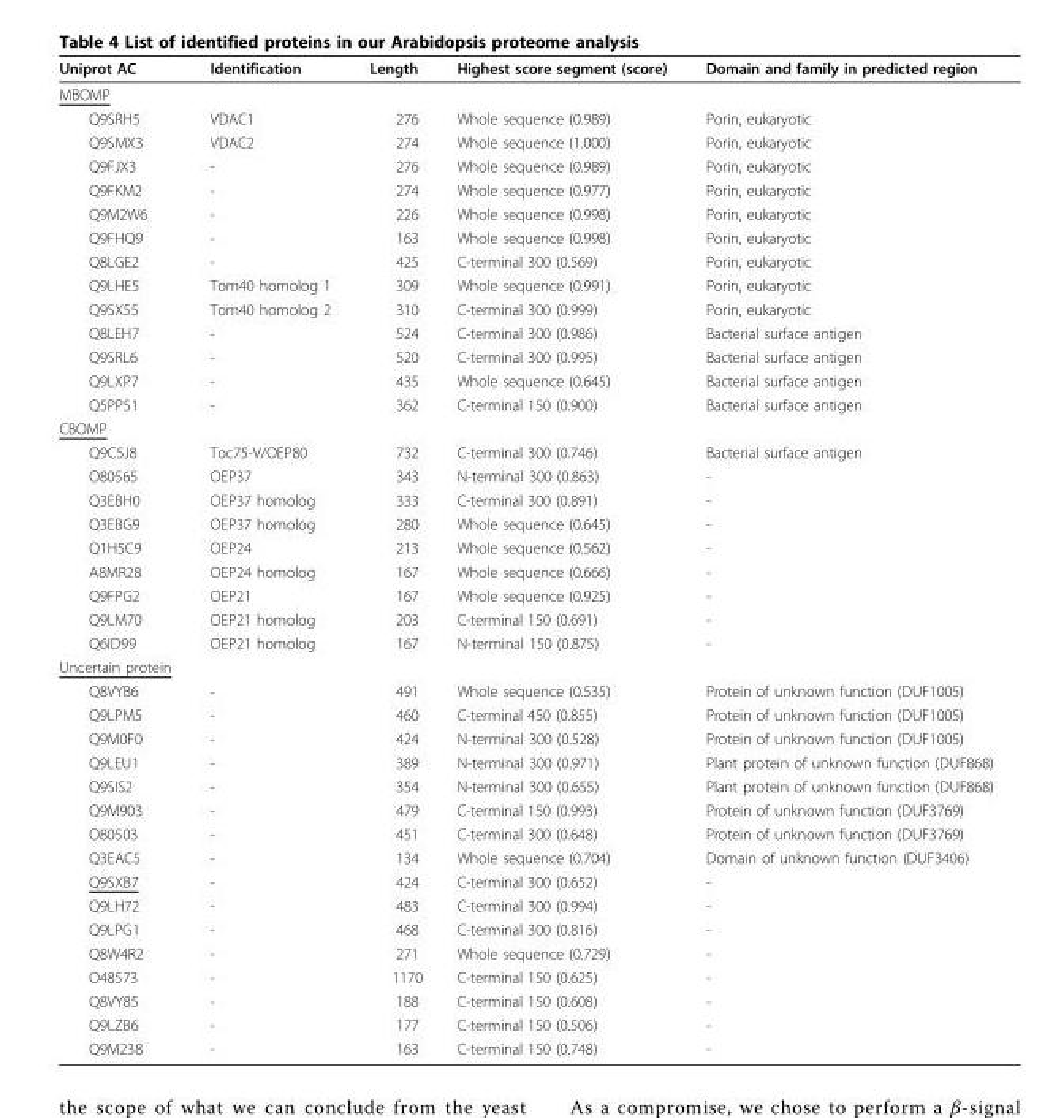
<table><thead><tr><td>Uniprot AC</td><td>Identification</td><td>Length</td><td>Highest score segment (score)</td><td>Domain and family in predicted region</td></tr></thead><tbody><tr><td colspan="5">MBOMP</td></tr><tr><td>Q9SRH5</td><td>VDAC1</td><td>276</td><td>Whole sequence (0.989)</td><td>Porin, eukaryotic</td></tr><tr><td>Q9SMX3</td><td>VDAC2</td><td>274</td><td>Whole sequence (1.000)</td><td>Porin, eukaryotic</td></tr><tr><td>Q9FJX3</td><td>-</td><td>276</td><td>Whole sequence (0.989)</td><td>Porin, eukaryotic</td></tr><tr><td>Q9FKM2</td><td>-</td><td>274</td><td>Whole sequence (0.977)</td><td>Porin, eukaryotic</td></tr><tr><td>Q9M2W6</td><td>-</td><td>226</td><td>Whole sequence (0.998)</td><td>Porin, eukaryotic</td></tr><tr><td>Q9FHQ9</td><td>-</td><td>163</td><td>Whole sequence (0.998)</td><td>Porin, eukaryotic</td></tr><tr><td>Q8LGE2</td><td>-</td><td>425</td><td>C-terminal 300 (0.569)</td><td>Porin, eukaryotic</td></tr><tr><td>Q9LHE5</td><td>Tom40 homolog 1</td><td>309</td><td>Whole sequence (0.991)</td><td>Porin, eukaryotic</td></tr><tr><td>Q9SX55</td><td>Tom40 homolog 2</td><td>310</td><td>C-terminal 300 (0.999)</td><td>Porin, eukaryotic</td></tr><tr><td>Q8LEH7</td><td>-</td><td>524</td><td>C-terminal 300 (0.986)</td><td>Bacterial surface antigen</td></tr><tr><td>Q9SRL6</td><td>-</td><td>520</td><td>C-terminal 300 (0.995)</td><td>Bacterial surface antigen</td></tr><tr><td>Q9LXP7</td><td>-</td><td>435</td><td>Whole sequence (0.645)</td><td>Bacterial surface antigen</td></tr><tr><td>Q5PP51</td><td>-</td><td>362</td><td>C-terminal 150 (0.900)</td><td>Bacterial surface antigen</td></tr><tr><td colspan="5">CBOMP</td></tr><tr><td>Q9C5J8</td><td>Toc75-V/OEP80</td><td>732</td><td>C-terminal 300 (0.746)</td><td>Bacterial surface antigen</td></tr><tr><td>O80565</td><td>OEP37</td><td>343</td><td>N-terminal 300 (0.863)</td><td>-</td></tr><tr><td>Q3EBH0</td><td>OEP37 homolog</td><td>333</td><td>C-terminal 300 (0.891)</td><td>-</td></tr><tr><td>Q3EBG9</td><td>OEP37 homolog</td><td>280</td><td>Whole sequence (0.645)</td><td>-</td></tr><tr><td>Q1H5C9</td><td>OEP24</td><td>213</td><td>Whole sequence (0.562)</td><td>-</td></tr><tr><td>A8MR28</td><td>OEP24 homolog</td><td>167</td><td>Whole sequence (0.666)</td><td>-</td></tr><tr><td>Q9FPG2</td><td>OEP21</td><td>167</td><td>Whole sequence (0.925)</td><td>-</td></tr><tr><td>Q9LM70</td><td>OEP21 homolog</td><td>203</td><td>C-terminal 150 (0.691)</td><td>-</td></tr><tr><td>Q6ID99</td><td>OEP21 homolog</td><td>167</td><td>N-terminal 150 (0.875)</td><td>-</td></tr><tr><td colspan="5">Uncertain protein</td></tr><tr><td>Q8VYB6</td><td>-</td><td>491</td><td>Whole sequence (0.535)</td><td>Protein of unknown function (DUF1005)</td></tr><tr><td>Q9LPM5</td><td>-</td><td>460</td><td>C-terminal 450 (0.855)</td><td>Protein of unknown function (DUF1005)</td></tr><tr><td>Q9M0F0</td><td>-</td><td>424</td><td>N-terminal 300 (0.528)</td><td>Protein of unknown function (DUF1005)</td></tr><tr><td>Q9LEU1</td><td>-</td><td>389</td><td>N-terminal 300 (0.971)</td><td>Plant protein of unknown function (DUF868)</td></tr><tr><td>Q9SIS2</td><td>-</td><td>354</td><td>N-terminal 300 (0.655)</td><td>Plant protein of unknown function (DUF868)</td></tr><tr><td>Q9M903</td><td>-</td><td>479</td><td>C-terminal 150 (0.993)</td><td>Protein of unknown function (DUF3769)</td></tr><tr><td>O80503</td><td>-</td><td>451</td><td>C-terminal 300 (0.648)</td><td>Protein of unknown function (DUF3769)</td></tr><tr><td>Q3EAC5</td><td>-</td><td>134</td><td>Whole sequence (0.704)</td><td>Domain of unknown function (DUF3406)</td></tr><tr><td>Q9SXB7</td><td>-</td><td>424</td><td>C-terminal 300 (0.652)</td><td>-</td></tr><tr><td>Q9LH72</td><td>-</td><td>483</td><td>C-terminal 300 (0.994)</td><td>-</td></tr><tr><td>Q9LPG1</td><td>-</td><td>468</td><td>C-terminal 300 (0.816)</td><td>-</td></tr><tr><td>Q8W4R2</td><td>-</td><td>271</td><td>Whole sequence (0.729)</td><td>-</td></tr><tr><td>O48573</td><td>-</td><td>1170</td><td>C-terminal 150 (0.625)</td><td>-</td></tr><tr><td>Q8VY85</td><td>-</td><td>188</td><td>C-terminal 150 (0.608)</td><td>-</td></tr><tr><td>Q9LZB6</td><td>-</td><td>177</td><td>C-terminal 150 (0.506)</td><td>-</td></tr><tr><td>Q9M238</td><td>-</td><td>163</td><td>C-terminal 150 (0.748)</td><td>-</td></tr></tbody></table>